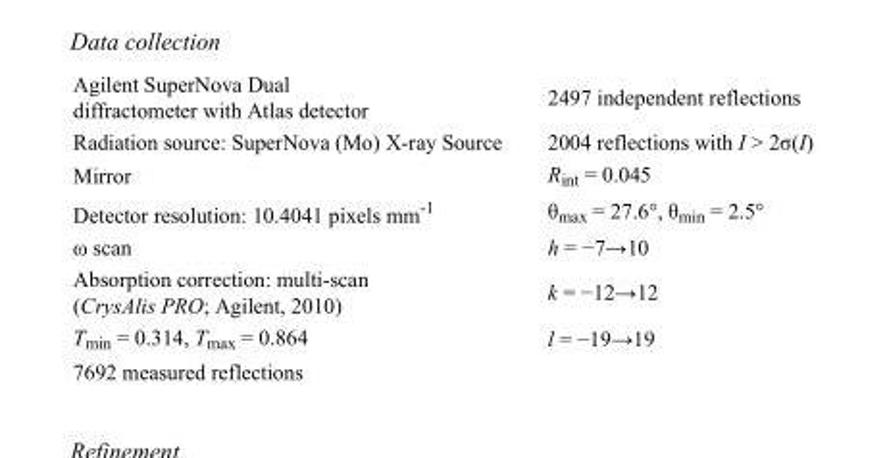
<table><tbody><tr><td>Agilent SuperNova Dual diffractometer with Atlas detector</td><td>2497 independent reflections</td></tr><tr><td>Radiation source: SuperNova (Mo) X-ray Source</td><td>2004 reflections with I &gt; 2σ(I)</td></tr><tr><td>Mirror</td><td>R<sub>int</sub> = 0.045</td></tr><tr><td>Detector resolution: 10.4041 pixels mm<sup>-1</sup></td><td>θ<sub>max</sub> = 27.6°, θ<sub>min</sub> = 2.5°</td></tr><tr><td>ω scan</td><td>h = −7→10</td></tr><tr><td>Absorption correction: multi-scan (CrysAlis PRO; Agilent, 2010)</td><td>k = −12→12</td></tr><tr><td>T<sub>min</sub> = 0.314, T<sub>max</sub> = 0.864</td><td>l = −19→19</td></tr><tr><td>7692 measured reflections</td><td></td></tr></tbody></table>